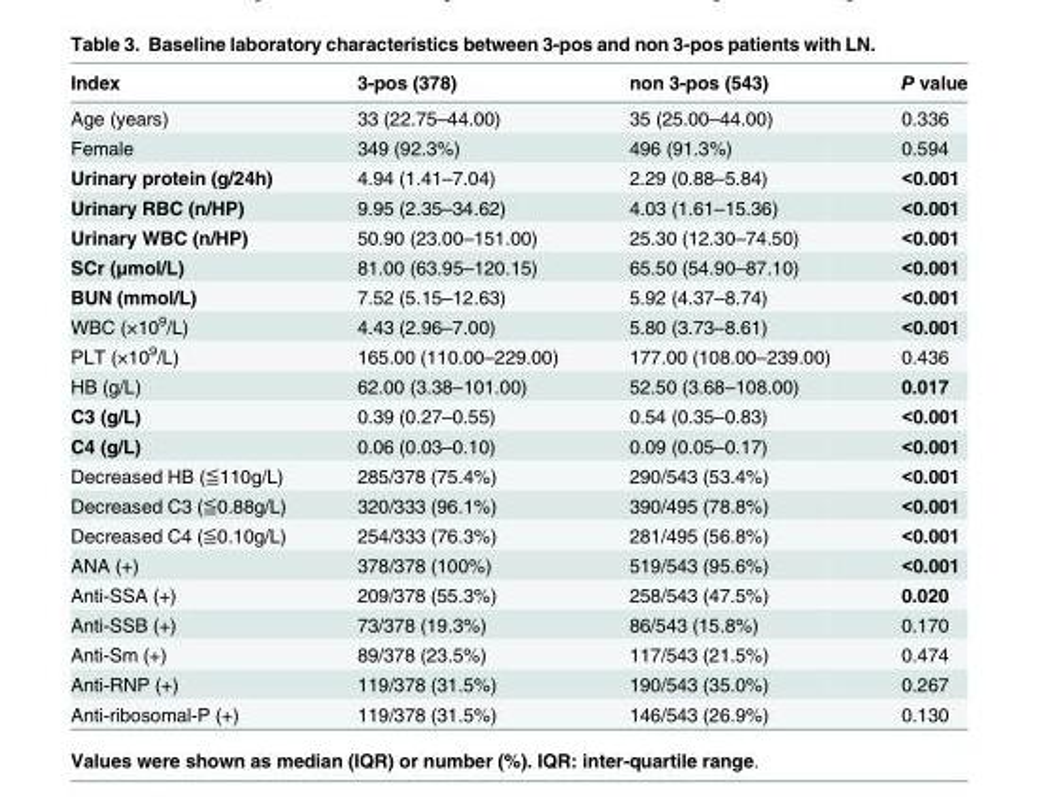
<table><thead><tr><td>Index</td><td>3-pos (378)</td><td>non 3-pos (543)</td><td>P value</td></tr></thead><tbody><tr><td>Age (years)</td><td>33 (22.75–44.00)</td><td>35 (25.00–44.00)</td><td>0.336</td></tr><tr><td>Female</td><td>349 (92.3%)</td><td>496 (91.3%)</td><td>0.594</td></tr><tr><td>Urinary protein (g/24h)</td><td>4.94 (1.41–7.04)</td><td>2.29 (0.88–5.84)</td><td>&lt;0.001</td></tr><tr><td>Urinary RBC (n/HP)</td><td>9.95 (2.35–34.62)</td><td>4.03 (1.61–15.36)</td><td>&lt;0.001</td></tr><tr><td>Urinary WBC (n/HP)</td><td>50.90 (23.00–151.00)</td><td>25.30 (12.30–74.50)</td><td>&lt;0.001</td></tr><tr><td>SCr (μmol/L)</td><td>81.00 (63.95–120.15)</td><td>65.50 (54.90–87.10)</td><td>&lt;0.001</td></tr><tr><td>BUN (mmol/L)</td><td>7.52 (5.15–12.63)</td><td>5.92 (4.37–8.74)</td><td>&lt;0.001</td></tr><tr><td>WBC (×10<sup>9</sup>/L)</td><td>4.43 (2.96–7.00)</td><td>5.80 (3.73–8.61)</td><td>&lt;0.001</td></tr><tr><td>PLT (×10<sup>9</sup>/L)</td><td>165.00 (110.00–229.00)</td><td>177.00 (108.00–239.00)</td><td>0.436</td></tr><tr><td>HB (g/L)</td><td>62.00 (3.38–101.00)</td><td>52.50 (3.68–108.00)</td><td>0.017</td></tr><tr><td>C3 (g/L)</td><td>0.39 (0.27–0.55)</td><td>0.54 (0.35–0.83)</td><td>&lt;0.001</td></tr><tr><td>C4 (g/L)</td><td>0.06 (0.03–0.10)</td><td>0.09 (0.05–0.17)</td><td>&lt;0.001</td></tr><tr><td>Decreased HB (≦110g/L)</td><td>285/378 (75.4%)</td><td>290/543 (53.4%)</td><td>&lt;0.001</td></tr><tr><td>Decreased C3 (≦0.88g/L)</td><td>320/333 (96.1%)</td><td>390/495 (78.8%)</td><td>&lt;0.001</td></tr><tr><td>Decreased C4 (≦0.10g/L)</td><td>254/333 (76.3%)</td><td>281/495 (56.8%)</td><td>&lt;0.001</td></tr><tr><td>ANA (+)</td><td>378/378 (100%)</td><td>519/543 (95.6%)</td><td>&lt;0.001</td></tr><tr><td>Anti-SSA (+)</td><td>209/378 (55.3%)</td><td>258/543 (47.5%)</td><td>0.020</td></tr><tr><td>Anti-SSB (+)</td><td>73/378 (19.3%)</td><td>86/543 (15.8%)</td><td>0.170</td></tr><tr><td>Anti-Sm (+)</td><td>89/378 (23.5%)</td><td>117/543 (21.5%)</td><td>0.474</td></tr><tr><td>Anti-RNP (+)</td><td>119/378 (31.5%)</td><td>190/543 (35.0%)</td><td>0.267</td></tr><tr><td>Anti-ribosomal-P (+)</td><td>119/378 (31.5%)</td><td>146/543 (26.9%)</td><td>0.130</td></tr></tbody></table>